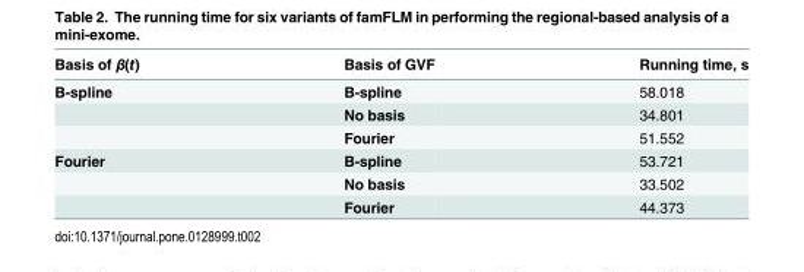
<table><thead><tr><td>Basis of β(t)</td><td>Basis of GVF</td><td>Running time, s</td></tr></thead><tbody><tr><td rowspan="3">B-spline</td><td>B-spline</td><td>58.018</td></tr><tr><td>No basis</td><td>34.801</td></tr><tr><td>Fourier</td><td>51.552</td></tr><tr><td rowspan="3">Fourier</td><td>B-spline</td><td>53.721</td></tr><tr><td>No basis</td><td>33.502</td></tr><tr><td>Fourier</td><td>44.373</td></tr></tbody></table>